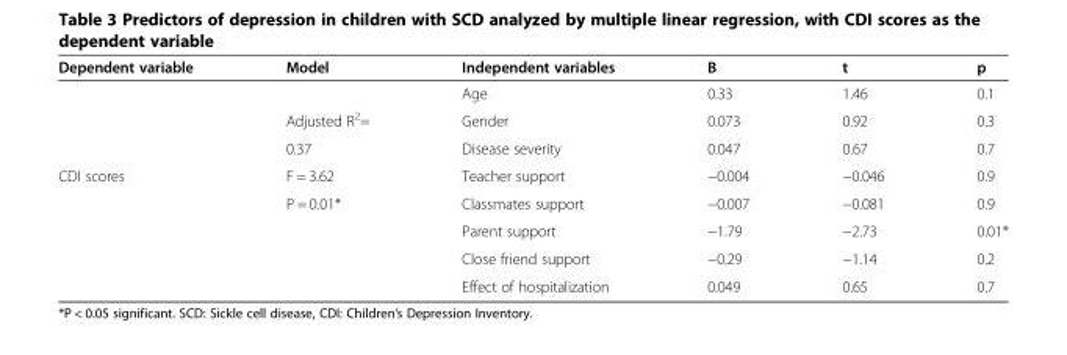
<table><thead><tr><td>Dependent variable</td><td>Model</td><td>Independent variables</td><td>B</td><td>t</td><td>p</td></tr></thead><tbody><tr><td></td><td></td><td>Age</td><td>0.33</td><td>1.46</td><td>0.1</td></tr><tr><td></td><td>Adjusted R<sup>2</sup>=</td><td>Gender</td><td>0.073</td><td>0.92</td><td>0.3</td></tr><tr><td></td><td>0.37</td><td>Disease severity</td><td>0.047</td><td>0.67</td><td>0.7</td></tr><tr><td rowspan="4">CDI scores</td><td>F = 3.62</td><td>Teacher support</td><td>−0.004</td><td>−0.046</td><td>0.9</td></tr><tr><td>P = 0.01*</td><td>Classmates support</td><td>−0.007</td><td>−0.081</td><td>0.9</td></tr><tr><td rowspan="2"></td><td>Parent support</td><td>−1.79</td><td>−2.73</td><td>0.01*</td></tr><tr><td>Close friend support</td><td>−0.29</td><td>−1.14</td><td>0.2</td></tr><tr><td colspan="2"></td><td>Effect of hospitalization</td><td>0.049</td><td>0.65</td><td>0.7</td></tr></tbody></table>